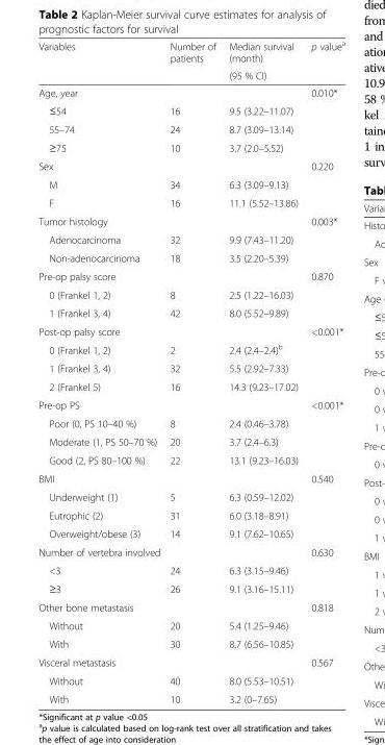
<table><thead><tr><td rowspan="2">Variables</td><td rowspan="2">Number of patients</td><td rowspan="2">Median survival (month) (95 % CI)</td><td rowspan="2">p value<sup>a</sup></td></tr><tr></tr></thead><tbody><tr><td>Age, year</td><td></td><td></td><td>0.010*</td></tr><tr><td>≤54</td><td>16</td><td>9.5 (3.22–11.07)</td><td></td></tr><tr><td>55–74</td><td>24</td><td>8.7 (3.09–13.14)</td><td></td></tr><tr><td>≥75</td><td>10</td><td>3.7 (2.0–5.52)</td><td></td></tr><tr><td>Sex</td><td></td><td></td><td>0.220</td></tr><tr><td>M</td><td>34</td><td>6.3 (3.09–9.13)</td><td></td></tr><tr><td>F</td><td>16</td><td>11.1 (5.52–13.86)</td><td></td></tr><tr><td>Tumor histology</td><td></td><td></td><td>0.003*</td></tr><tr><td>Adenocarcinoma</td><td>32</td><td>9.9 (7.43–11.20)</td><td></td></tr><tr><td>Non-adenocarcinoma</td><td>18</td><td>3.5 (2.20–5.39)</td><td></td></tr><tr><td>Pre-op palsy score</td><td></td><td></td><td>0.870</td></tr><tr><td>0 (Frankel 1, 2)</td><td>8</td><td>2.5 (1.22–16.03)</td><td></td></tr><tr><td>1 (Frankel 3, 4)</td><td>42</td><td>8.0 (5.52–9.89)</td><td></td></tr><tr><td>Post-op palsy score</td><td></td><td></td><td>&lt;0.001*</td></tr><tr><td>0 (Frankel 1, 2)</td><td>2</td><td>2.4 (2.4–2.4)<sup>b</sup></td><td></td></tr><tr><td>1 (Frankel 3, 4)</td><td>32</td><td>5.5 (2.92–7.33)</td><td></td></tr><tr><td>2 (Frankel 5)</td><td>16</td><td>14.3 (9.23–17.02)</td><td></td></tr><tr><td>Pre-op PS</td><td></td><td></td><td>&lt;0.001*</td></tr><tr><td>Poor (0, PS 10–40 %)</td><td>8</td><td>2.4 (0.46–3.78)</td><td></td></tr><tr><td>Moderate (1, PS 50–70 %)</td><td>20</td><td>3.7 (2.4–6.3)</td><td></td></tr><tr><td>Good (2, PS 80–100 %)</td><td>22</td><td>13.1 (9.23–16.03)</td><td></td></tr><tr><td>BMI</td><td></td><td></td><td>0.540</td></tr><tr><td>Underweight (1)</td><td>5</td><td>6.3 (0.59–12.02)</td><td></td></tr><tr><td>Eutrophic (2)</td><td>31</td><td>6.0 (3.18–8.91)</td><td></td></tr><tr><td>Overweight/obese (3)</td><td>14</td><td>9.1 (7.62–10.65)</td><td></td></tr><tr><td colspan="2">Number of vertebra involved</td><td></td><td>0.630</td></tr><tr><td>&lt;3</td><td>24</td><td>6.3 (3.15–9.46)</td><td></td></tr><tr><td>≥3</td><td>26</td><td>9.1 (3.16–15.11)</td><td></td></tr><tr><td>Other bone metastasis</td><td></td><td></td><td>0.818</td></tr><tr><td>Without</td><td>20</td><td>5.4 (1.25–9.46)</td><td></td></tr><tr><td>With</td><td>30</td><td>8.7 (6.56–10.85)</td><td></td></tr><tr><td>Visceral metastasis</td><td></td><td></td><td>0.567</td></tr><tr><td>Without</td><td>40</td><td>8.0 (5.53–10.51)</td><td></td></tr><tr><td>With</td><td>10</td><td>3.2 (0–7.65)</td><td></td></tr></tbody></table>